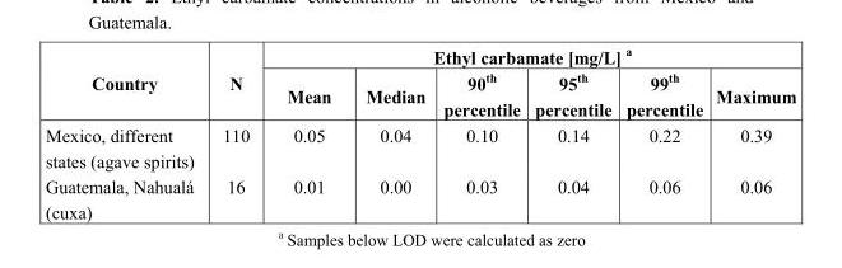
<table><thead><tr><td rowspan="2">Country</td><td rowspan="2">N</td><td colspan="6">Ethyl carbamate [mg/L] a</td></tr><tr><td>Mean</td><td>Median</td><td>90<sup>th</sup> percentile</td><td>95<sup>th</sup> percentile</td><td>99<sup>th</sup> percentile</td><td>Maximum</td></tr></thead><tbody><tr><td>Mexico, different states (agave spirits)</td><td>110</td><td>0.05</td><td>0.04</td><td>0.10</td><td>0.14</td><td>0.22</td><td>0.39</td></tr><tr><td>Guatemala, Nahualá (cuxa)</td><td>16</td><td>0.01</td><td>0.00</td><td>0.03</td><td>0.04</td><td>0.06</td><td>0.06</td></tr></tbody></table>